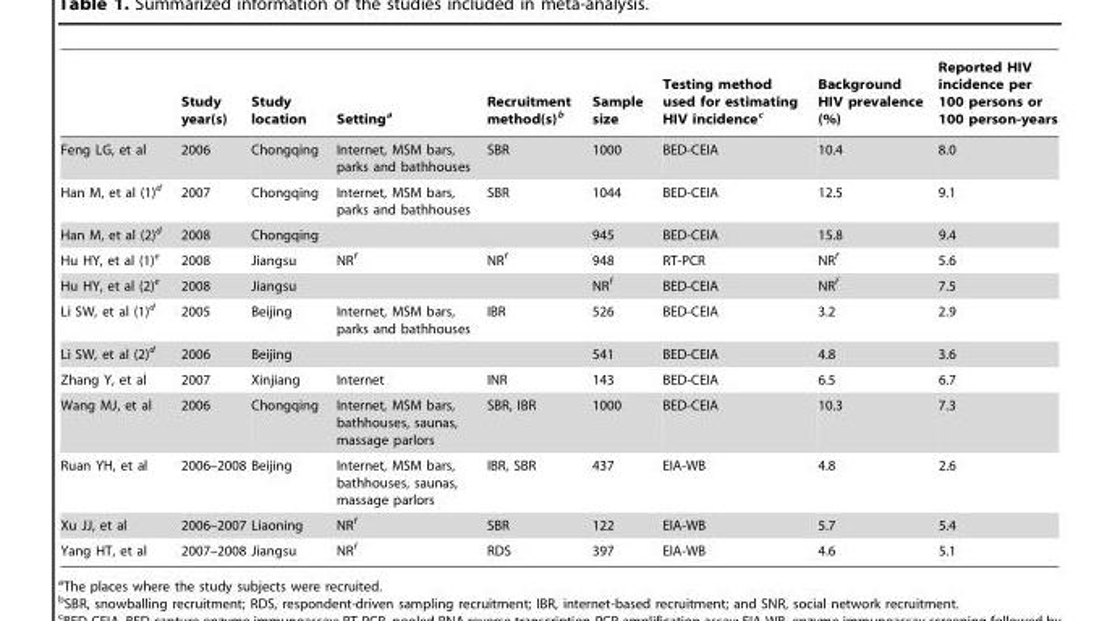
<table><thead><tr><td></td><td>Study year(s)</td><td>Study location</td><td>Setting<sup>a</sup></td><td>Recruitment method(s)<sup>b</sup></td><td>Sample size</td><td>Testing method used for estimating HIV incidence<sup>c</sup></td><td>Background HIV prevalence (%)</td><td>Reported HIV incidence per 100 persons or 100 person-years</td></tr></thead><tbody><tr><td>Feng LG, et al</td><td>2006</td><td>Chongqing</td><td>Internet, MSM bars, parks and bathhouses</td><td>SBR</td><td>1000</td><td>BED-CEIA</td><td>10.4</td><td>8.0</td></tr><tr><td>Han M, et al (1)<sup>d</sup></td><td>2007</td><td>Chongqing</td><td>Internet, MSM bars, parks and bathhouses</td><td>SBR</td><td>1044</td><td>BED-CEIA</td><td>12.5</td><td>9.1</td></tr><tr><td>Han M, et al (2)<sup>d</sup></td><td>2008</td><td>Chongqing</td><td></td><td></td><td>945</td><td>BED-CEIA</td><td>15.8</td><td>9.4</td></tr><tr><td>Hu HY, et al (1)<sup>e</sup></td><td>2008</td><td>Jiangsu</td><td>NR<sup>f</sup></td><td>NR<sup>f</sup></td><td>948</td><td>RT-PCR</td><td>NR<sup>f</sup></td><td>5.6</td></tr><tr><td>Hu HY, et al (2)<sup>e</sup></td><td>2008</td><td>Jiangsu</td><td></td><td></td><td>NR<sup>f</sup></td><td>BED-CEIA</td><td>NR<sup>f</sup></td><td>7.5</td></tr><tr><td>Li SW, et al (1)<sup>d</sup></td><td>2005</td><td>Beijing</td><td>Internet, MSM bars, parks and bathhouses</td><td>IBR</td><td>526</td><td>BED-CEIA</td><td>3.2</td><td>2.9</td></tr><tr><td>Li SW, et al (2)<sup>d</sup></td><td>2006</td><td>Beijing</td><td></td><td></td><td>541</td><td>BED-CEIA</td><td>4.8</td><td>3.6</td></tr><tr><td>Zhang Y, et al</td><td>2007</td><td>Xinjiang</td><td>Internet</td><td>INR</td><td>143</td><td>BED-CEIA</td><td>6.5</td><td>6.7</td></tr><tr><td>Wang MJ, et al</td><td>2006</td><td>Chongqing</td><td>Internet, MSM bars, bathhouses, saunas, massage parlors</td><td>SBR, IBR</td><td>1000</td><td>BED-CEIA</td><td>10.3</td><td>7.3</td></tr><tr><td>Ruan YH, et al</td><td>2006–2008</td><td>Beijing</td><td>Internet, MSM bars, bathhouses, saunas, massage parlors</td><td>IBR, SBR</td><td>437</td><td>EIA-WB</td><td>4.8</td><td>2.6</td></tr><tr><td>Xu JJ, et al</td><td>2006–2007</td><td>Liaoning</td><td>NR<sup>f</sup></td><td>SBR</td><td>122</td><td>EIA-WB</td><td>5.7</td><td>5.4</td></tr><tr><td>Yang HT, et al</td><td>2007–2008</td><td>Jiangsu</td><td>NR<sup>f</sup></td><td>RDS</td><td>397</td><td>EIA-WB</td><td>4.6</td><td>5.1</td></tr></tbody></table>